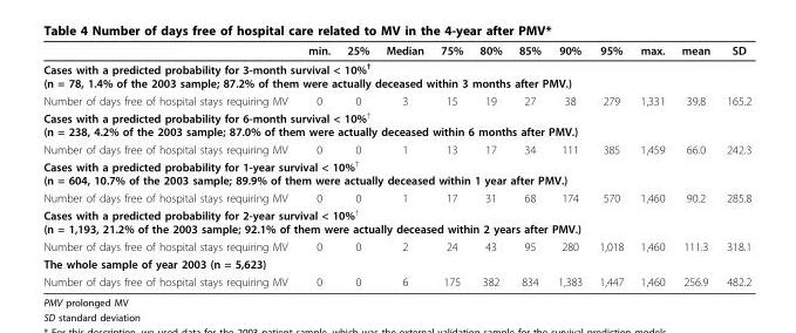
<table><thead><tr><td></td><td>min.</td><td>25%</td><td>Median</td><td>75%</td><td>80%</td><td>85%</td><td>90%</td><td>95%</td><td>max.</td><td>mean</td><td>SD</td></tr></thead><tbody><tr><td colspan="12">Cases with a predicted probability for 3-month survival &lt; 10%<sup>†</sup> (n = 78, 1.4% of the 2003 sample; 87.2% of them were actually deceased within 3 months after PMV.)</td></tr><tr><td>Number of days free of hospital stays requiring MV</td><td>0</td><td>0</td><td>3</td><td>15</td><td>19</td><td>27</td><td>38</td><td>279</td><td>1,331</td><td>39.8</td><td>165.2</td></tr><tr><td colspan="12">Cases with a predicted probability for 6-month survival &lt; 10%<sup>†</sup> (n = 238, 4.2% of the 2003 sample; 87.0% of them were actually deceased within 6 months after PMV.)</td></tr><tr><td>Number of days free of hospital stays requiring MV</td><td>0</td><td>0</td><td>1</td><td>13</td><td>17</td><td>34</td><td>111</td><td>385</td><td>1,459</td><td>66.0</td><td>242.3</td></tr><tr><td colspan="12">Cases with a predicted probability for 1-year survival &lt; 10%<sup>†</sup> (n = 604, 10.7% of the 2003 sample; 89.9% of them were actually deceased within 1 year after PMV.)</td></tr><tr><td>Number of days free of hospital stays requiring MV</td><td>0</td><td>0</td><td>1</td><td>17</td><td>31</td><td>68</td><td>174</td><td>570</td><td>1,460</td><td>90.2</td><td>285.8</td></tr><tr><td colspan="12">Cases with a predicted probability for 2-year survival &lt; 10%<sup>†</sup> (n = 1,193, 21.2% of the 2003 sample; 92.1% of them were actually deceased within 2 years after PMV.)</td></tr><tr><td>Number of days free of hospital stays requiring MV</td><td>0</td><td>0</td><td>2</td><td>24</td><td>43</td><td>95</td><td>280</td><td>1,018</td><td>1,460</td><td>111.3</td><td>318.1</td></tr><tr><td colspan="12">The whole sample of year 2003 (n = 5,623)</td></tr><tr><td>Number of days free of hospital stays requiring MV</td><td>0</td><td>0</td><td>6</td><td>175</td><td>382</td><td>834</td><td>1,383</td><td>1,447</td><td>1,460</td><td>256.9</td><td>482.2</td></tr></tbody></table>